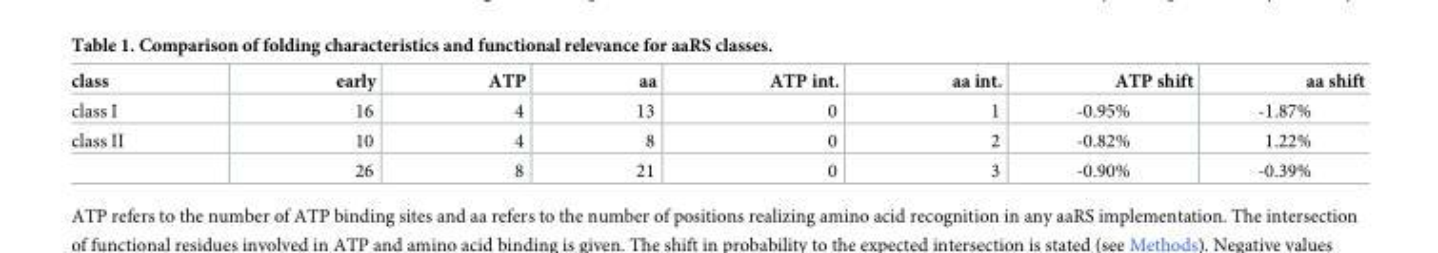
<table><thead><tr><td>class</td><td>early</td><td>ATP</td><td>aa</td><td>ATP int.</td><td>aa int.</td><td>ATP shift</td><td>aa shift</td></tr></thead><tbody><tr><td>class I</td><td>16</td><td>4</td><td>13</td><td>0</td><td>1</td><td>-0.95%</td><td>-1.87%</td></tr><tr><td rowspan="2">class II</td><td>10</td><td>4</td><td>8</td><td>0</td><td>2</td><td>-0.82%</td><td>1.22%</td></tr><tr><td>26</td><td>8</td><td>21</td><td>0</td><td>3</td><td>-0.90%</td><td>-0.39%</td></tr></tbody></table>